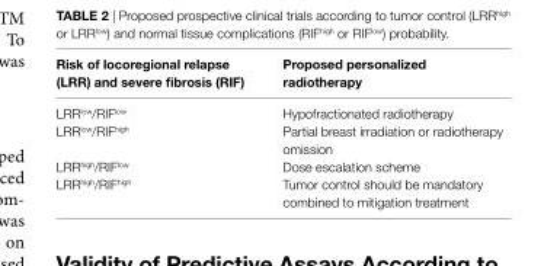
<table><thead><tr><td>Risk of locoregional relapse (LRR) and severe fibrosis (RiF)</td><td>Proposed personalized radiotherapy</td></tr></thead><tbody><tr><td>LRR<sup>low</sup>/RIF<sup>low</sup></td><td>Hypofractionated radiotherapy</td></tr><tr><td>LRR<sup>low</sup>/RIF<sup>high</sup></td><td>Partial breast irradiation or radiotherapy omission</td></tr><tr><td>LRR<sup>high</sup>/RIF<sup>low</sup></td><td>Dose escalation scheme</td></tr><tr><td>LRR<sup>high</sup>/RIF<sup>high</sup></td><td>Tumor control should be mandatory combined to mitigation treatment</td></tr></tbody></table>